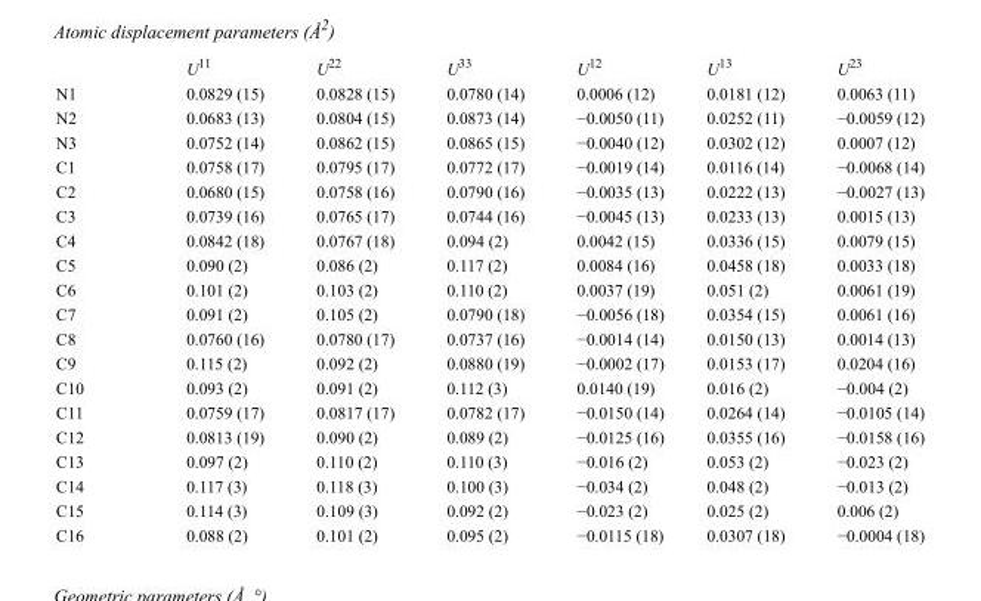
<table><thead><tr><td></td><td>U<sup>11</sup></td><td>U<sup>22</sup></td><td>U<sup>33</sup></td><td>U<sup>12</sup></td><td>U<sup>13</sup></td><td>U<sup>23</sup></td></tr></thead><tbody><tr><td>N1</td><td>0.0829 (15)</td><td>0.0828 (15)</td><td>0.0780 (14)</td><td>0.0006 (12)</td><td>0.0181 (12)</td><td>0.0063 (11)</td></tr><tr><td>N2</td><td>0.0683 (13)</td><td>0.0804 (15)</td><td>0.0873 (14)</td><td>−0.0050 (11)</td><td>0.0252 (11)</td><td>−0.0059 (12)</td></tr><tr><td>N3</td><td>0.0752 (14)</td><td>0.0862 (15)</td><td>0.0865 (15)</td><td>−0.0040 (12)</td><td>0.0302 (12)</td><td>0.0007 (12)</td></tr><tr><td>C1</td><td>0.0758 (17)</td><td>0.0795 (17)</td><td>0.0772 (17)</td><td>−0.0019 (14)</td><td>0.0116 (14)</td><td>−0.0068 (14)</td></tr><tr><td>C2</td><td>0.0680 (15)</td><td>0.0758 (16)</td><td>0.0790 (16)</td><td>−0.0035 (13)</td><td>0.0222 (13)</td><td>−0.0027 (13)</td></tr><tr><td>C3</td><td>0.0739 (16)</td><td>0.0765 (17)</td><td>0.0744 (16)</td><td>−0.0045 (13)</td><td>0.0233 (13)</td><td>0.0015 (13)</td></tr><tr><td>C4</td><td>0.0842 (18)</td><td>0.0767 (18)</td><td>0.094 (2)</td><td>0.0042 (15)</td><td>0.0336 (15)</td><td>0.0079 (15)</td></tr><tr><td>C5</td><td>0.090 (2)</td><td>0.086 (2)</td><td>0.117 (2)</td><td>0.0084 (16)</td><td>0.0458 (18)</td><td>0.0033 (18)</td></tr><tr><td>C6</td><td>0.101 (2)</td><td>0.103 (2)</td><td>0.110 (2)</td><td>0.0037 (19)</td><td>0.051 (2)</td><td>0.0061 (19)</td></tr><tr><td>C7</td><td>0.091 (2)</td><td>0.105 (2)</td><td>0.0790 (18)</td><td>−0.0056 (18)</td><td>0.0354 (15)</td><td>0.0061 (16)</td></tr><tr><td>C8</td><td>0.0760 (16)</td><td>0.0780 (17)</td><td>0.0737 (16)</td><td>−0.0014 (14)</td><td>0.0150 (13)</td><td>0.0014 (13)</td></tr><tr><td>C9</td><td>0.115 (2)</td><td>0.092 (2)</td><td>0.0880 (19)</td><td>−0.0002 (17)</td><td>0.0153 (17)</td><td>0.0204 (16)</td></tr><tr><td>C10</td><td>0.093 (2)</td><td>0.091 (2)</td><td>0.112 (3)</td><td>0.0140 (19)</td><td>0.016 (2)</td><td>−0.004 (2)</td></tr><tr><td>C11</td><td>0.0759 (17)</td><td>0.0817 (17)</td><td>0.0782 (17)</td><td>−0.0150 (14)</td><td>0.0264 (14)</td><td>−0.0105 (14)</td></tr><tr><td>C12</td><td>0.0813 (19)</td><td>0.090 (2)</td><td>0.089 (2)</td><td>−0.0125 (16)</td><td>0.0355 (16)</td><td>−0.0158 (16)</td></tr><tr><td>C13</td><td>0.097 (2)</td><td>0.110 (2)</td><td>0.110 (3)</td><td>−0.016 (2)</td><td>0.053 (2)</td><td>−0.023 (2)</td></tr><tr><td>C14</td><td>0.117 (3)</td><td>0.118 (3)</td><td>0.100 (3)</td><td>−0.034 (2)</td><td>0.048 (2)</td><td>−0.013 (2)</td></tr><tr><td>C15</td><td>0.114 (3)</td><td>0.109 (3)</td><td>0.092 (2)</td><td>−0.023 (2)</td><td>0.025 (2)</td><td>0.006 (2)</td></tr><tr><td>C16</td><td>0.088 (2)</td><td>0.101 (2)</td><td>0.095 (2)</td><td>−0.0115 (18)</td><td>0.0307 (18)</td><td>−0.0004 (18)</td></tr></tbody></table>